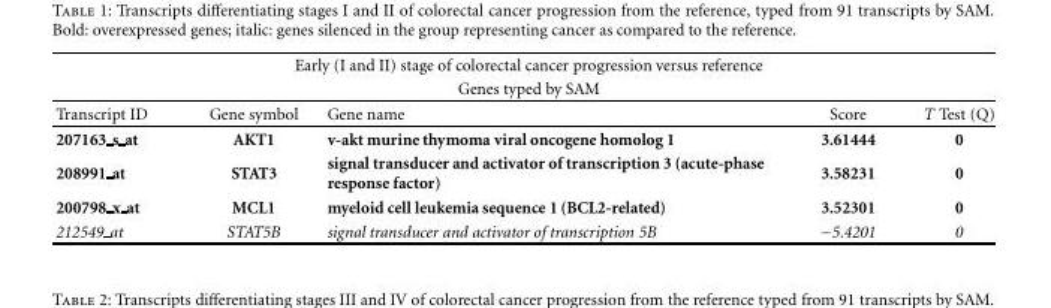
<table><thead><tr><td rowspan="2" colspan="5">Early (I and II) stage of colorectal cancer progression versus reference Genes typed by SAM</td></tr><tr></tr><tr><td>Transcript ID</td><td>Gene symbol</td><td>Gene name</td><td>Score</td><td>T Test (Q)</td></tr></thead><tbody><tr><td>207163 <sub>s</sub> at</td><td>AKT1</td><td>v-akt murine thymoma viral oncogene homolog 1</td><td>3.61444</td><td>0</td></tr><tr><td>208991 at</td><td>STAT3</td><td>signal transducer and activator of transcription 3 (acute-phase response factor)</td><td>3.58231</td><td>0</td></tr><tr><td>200798 <sub>x</sub> at</td><td>MCL1</td><td>myeloid cell leukemia sequence 1 (BCL2-related)</td><td>3.52301</td><td>0</td></tr><tr><td>212549 at</td><td>STAT5B</td><td>signal transducer and activator of transcription 5B</td><td>−5.4201</td><td>0</td></tr></tbody></table>